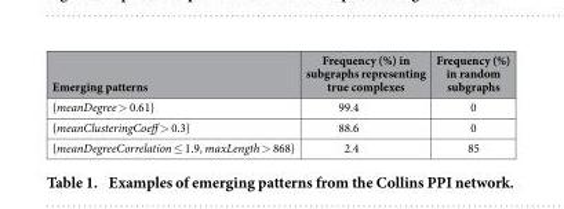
<table><thead><tr><td>Emerging patterns</td><td>Frequency (%) in subgraphs representing true complexes</td><td>Frequency (%) in random subgraphs</td></tr></thead><tbody><tr><td>{meanDegree &gt; 0.61}</td><td>99.4</td><td>0</td></tr><tr><td>{meanClusteringCoeff &gt; 0.3}</td><td>88.6</td><td>0</td></tr><tr><td>{meanDegreeCorrelation ≤ 1.9, maxLength &gt; 868}</td><td>2.4</td><td>85</td></tr></tbody></table>